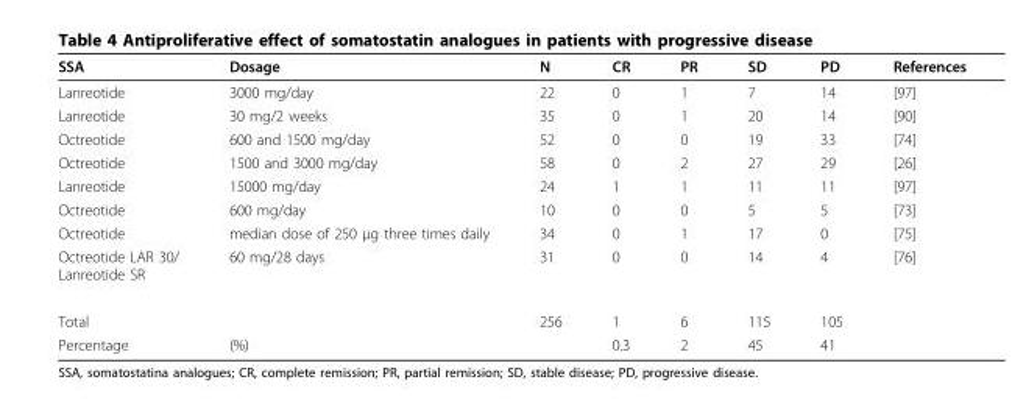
<table><thead><tr><td>SSA</td><td>Dosage</td><td>N</td><td>CR</td><td>PR</td><td>SD</td><td>PD</td><td>References</td></tr></thead><tbody><tr><td>Lanreotide</td><td>3000 mg/day</td><td>22</td><td>0</td><td>1</td><td>7</td><td>14</td><td>[97]</td></tr><tr><td>Lanreotide</td><td>30 mg/2 weeks</td><td>35</td><td>0</td><td>1</td><td>20</td><td>14</td><td>[90]</td></tr><tr><td>Octreotide</td><td>600 and 1500 mg/day</td><td>52</td><td>0</td><td>0</td><td>19</td><td>33</td><td>[74]</td></tr><tr><td>Octreotide</td><td>1500 and 3000 mg/day</td><td>58</td><td>0</td><td>2</td><td>27</td><td>29</td><td>[26]</td></tr><tr><td>Lanreotide</td><td>15000 mg/day</td><td>24</td><td>1</td><td>1</td><td>11</td><td>11</td><td>[97]</td></tr><tr><td>Octreotide</td><td>600 mg/day</td><td>10</td><td>0</td><td>0</td><td>5</td><td>5</td><td>[73]</td></tr><tr><td>Octreotide</td><td>median dose of 250 μg three times daily</td><td>34</td><td>0</td><td>1</td><td>17</td><td>0</td><td>[75]</td></tr><tr><td>Octreotide LAR 30/ Lanreotide SR</td><td>60 mg/28 days</td><td>31</td><td>0</td><td>0</td><td>14</td><td>4</td><td>[76]</td></tr><tr><td>Total</td><td></td><td>256</td><td>1</td><td>6</td><td>115</td><td>105</td><td></td></tr><tr><td>Percentage</td><td>(%)</td><td></td><td>0.3</td><td>2</td><td>45</td><td>41</td><td></td></tr></tbody></table>